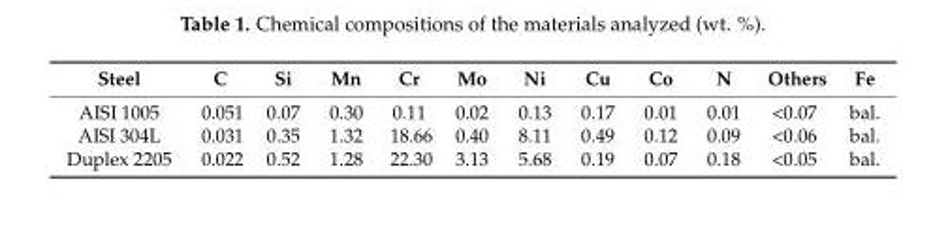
<table><thead><tr><td>Steel</td><td>C</td><td>Si</td><td>Mn</td><td>Cr</td><td>Mo</td><td>Ni</td><td>Cu</td><td>Co</td><td>N</td><td>Others</td><td>Fe</td></tr></thead><tbody><tr><td>AISI 1005</td><td>0.051</td><td>0.07</td><td>0.30</td><td>0.11</td><td>0.02</td><td>0.13</td><td>0.17</td><td>0.01</td><td>0.01</td><td>&lt;0.07</td><td>bal.</td></tr><tr><td>AISI 304L</td><td>0.031</td><td>0.35</td><td>1.32</td><td>18.66</td><td>0.40</td><td>8.11</td><td>0.49</td><td>0.12</td><td>0.09</td><td>&lt;0.06</td><td>bal.</td></tr><tr><td>Duplex 2205</td><td>0.022</td><td>0.52</td><td>1.28</td><td>22.30</td><td>3.13</td><td>5.68</td><td>0.19</td><td>0.07</td><td>0.18</td><td>&lt;0.05</td><td>bal.</td></tr></tbody></table>